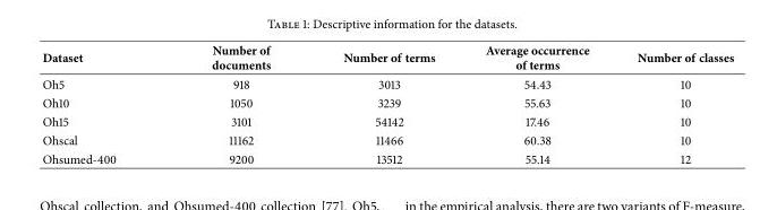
<table><thead><tr><td>Dataset</td><td>Number of documents</td><td>Number of terms</td><td>Average occurrence of terms</td><td>Number of classes</td></tr></thead><tbody><tr><td>Oh5</td><td>918</td><td>3013</td><td>54.43</td><td>10</td></tr><tr><td>Oh10</td><td>1050</td><td>3239</td><td>55.63</td><td>10</td></tr><tr><td>Oh15</td><td>3101</td><td>54142</td><td>17.46</td><td>10</td></tr><tr><td>Ohscal</td><td>11162</td><td>11466</td><td>60.38</td><td>10</td></tr><tr><td>Ohsumed-400</td><td>9200</td><td>13512</td><td>55.14</td><td>12</td></tr></tbody></table>